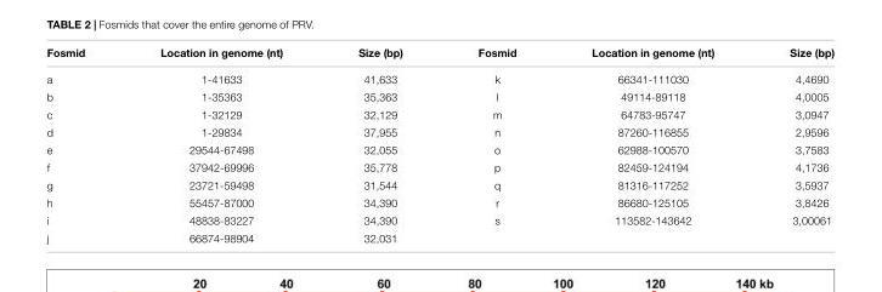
<table><thead><tr><td>Fosmid</td><td>Location in genome (nt)</td><td>Size (bp)</td><td>Fosmid</td><td>Location in genome (nt)</td><td>Size (bp)</td></tr></thead><tbody><tr><td>a</td><td>1-41633</td><td>41,633</td><td>k</td><td>66341-111030</td><td>4,4690</td></tr><tr><td>b</td><td>1-35363</td><td>35,363</td><td>l</td><td>49114-89118</td><td>4,0005</td></tr><tr><td>c</td><td>1-32129</td><td>32,129</td><td>m</td><td>64783-95747</td><td>3,0947</td></tr><tr><td>d</td><td>1-29834</td><td>37,955</td><td>n</td><td>87260-116855</td><td>2,9596</td></tr><tr><td>e</td><td>29544-67498</td><td>32,055</td><td>o</td><td>62988-100570</td><td>3,7583</td></tr><tr><td>f</td><td>37942-69996</td><td>35,778</td><td>p</td><td>82459-124194</td><td>4,1736</td></tr><tr><td>g</td><td>23721-59498</td><td>31,544</td><td>q</td><td>81316-117252</td><td>3,5937</td></tr><tr><td>h</td><td>55457-87000</td><td>34,390</td><td>r</td><td>86680-125105</td><td>3,8426</td></tr><tr><td>i</td><td>48838-83227</td><td>34,390</td><td>s</td><td>113582-143642</td><td>3,00061</td></tr><tr><td>j</td><td>66874-98904</td><td>32,031</td><td></td><td></td><td></td></tr></tbody></table>